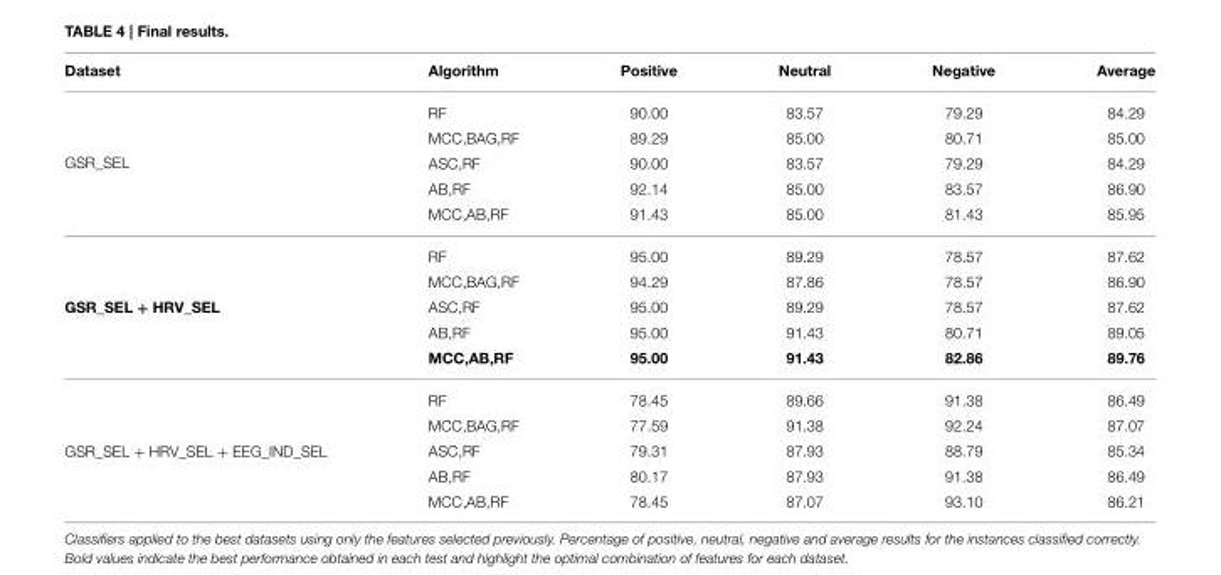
<table><thead><tr><td>Dataset</td><td>Algorithm</td><td>Positive</td><td>Neutral</td><td>Negative</td><td>Average</td></tr></thead><tbody><tr><td rowspan="5">GSR_SEL</td><td>RF</td><td>90.00</td><td>83.57</td><td>79.29</td><td>84.29</td></tr><tr><td>MCC,BAG,RF</td><td>89.29</td><td>85.00</td><td>80.71</td><td>85.00</td></tr><tr><td>ASC,RF</td><td>90.00</td><td>83.57</td><td>79.29</td><td>84.29</td></tr><tr><td>AB,RF</td><td>92.14</td><td>85.00</td><td>83.57</td><td>86.90</td></tr><tr><td>MCC,AB,RF</td><td>91.43</td><td>85.00</td><td>81.43</td><td>85.95</td></tr><tr><td rowspan="5">GSR_SEL + HRV_SEL</td><td>RF</td><td>95.00</td><td>89.29</td><td>78.57</td><td>87.62</td></tr><tr><td>MCC,BAG,RF</td><td>94.29</td><td>87.86</td><td>78.57</td><td>86.90</td></tr><tr><td>ASC,RF</td><td>95.00</td><td>89.29</td><td>78.57</td><td>87.62</td></tr><tr><td>AB,RF</td><td>95.00</td><td>91.43</td><td>80.71</td><td>89.05</td></tr><tr><td>MCC,AB,RF</td><td>95.00</td><td>91.43</td><td>82.86</td><td>89.76</td></tr><tr><td rowspan="5">GSR_SEL + HRV_SEL + EEG_IND_SEL</td><td>RF</td><td>78.45</td><td>89.66</td><td>91.38</td><td>86.49</td></tr><tr><td>MCC,BAG,RF</td><td>77.59</td><td>91.38</td><td>92.24</td><td>87.07</td></tr><tr><td>ASC,RF</td><td>79.31</td><td>87.93</td><td>88.79</td><td>85.34</td></tr><tr><td>AB,RF</td><td>80.17</td><td>87.93</td><td>91.38</td><td>86.49</td></tr><tr><td>MCC,AB,RF</td><td>78.45</td><td>87.07</td><td>93.10</td><td>86.21</td></tr></tbody></table>